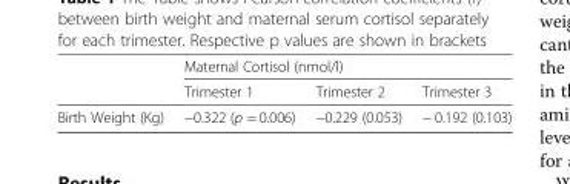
<table><thead><tr><td rowspan="2"></td><td colspan="3">Maternal Cortisol (nmol/l)</td></tr><tr><td>Trimester 1</td><td>Trimester 2</td><td>Trimester 3</td></tr></thead><tbody><tr><td>Birth Weight (Kg)</td><td>−0.322 (p = 0.006)</td><td>−0.229 (0.053)</td><td>− 0.192 (0.103)</td></tr></tbody></table>